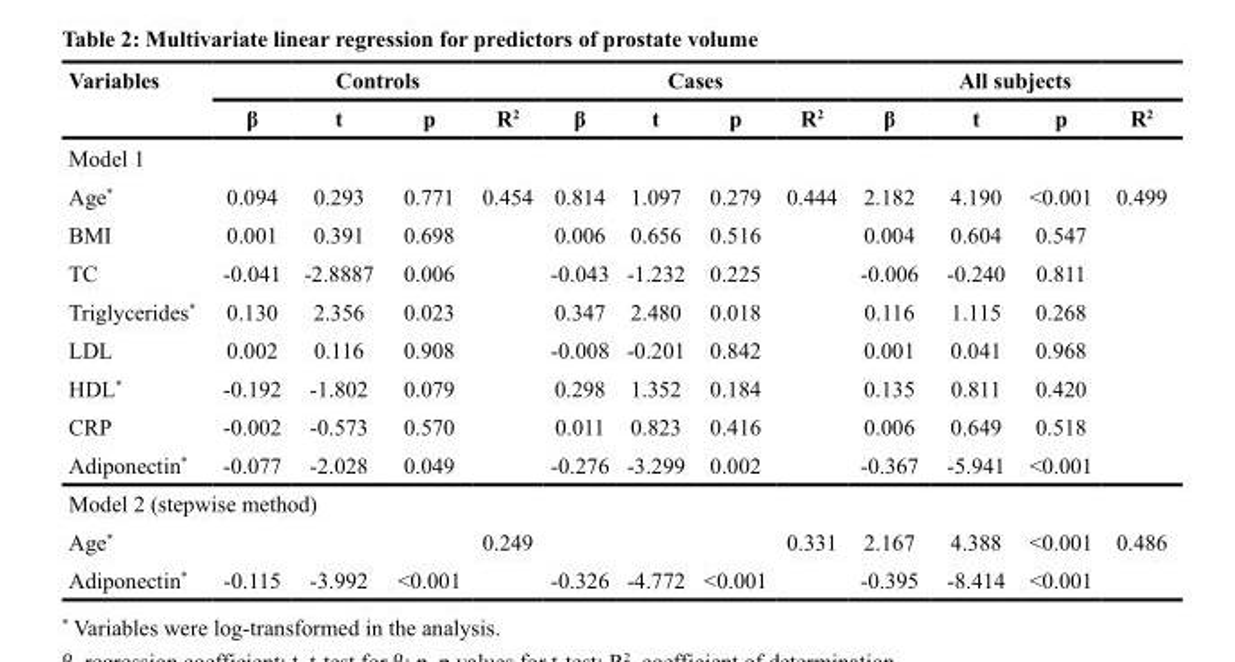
<table><thead><tr><td rowspan="2">Variables</td><td colspan="4">Controls</td><td colspan="4">Cases</td><td colspan="4">All subjects</td></tr><tr><td>β</td><td>t</td><td>p</td><td>R<sup>2</sup></td><td>β</td><td>t</td><td>p</td><td>R<sup>2</sup></td><td>β</td><td>t</td><td>p</td><td>R<sup>2</sup></td></tr></thead><tbody><tr><td colspan="13">Model 1</td></tr><tr><td>Age*</td><td>0.094</td><td>0.293</td><td>0.771</td><td>0.454</td><td>0.814</td><td>1.097</td><td>0.279</td><td>0.444</td><td>2.182</td><td>4.190</td><td>&lt;0.001</td><td>0.499</td></tr><tr><td>BMI</td><td>0.001</td><td>0.391</td><td>0.698</td><td></td><td>0.006</td><td>0.656</td><td>0.516</td><td></td><td>0.004</td><td>0.604</td><td>0.547</td><td></td></tr><tr><td>TC</td><td>-0.041</td><td>-2.8887</td><td>0.006</td><td></td><td>-0.043</td><td>-1.232</td><td>0.225</td><td></td><td>-0.006</td><td>-0.240</td><td>0.811</td><td></td></tr><tr><td>Triglycerides*</td><td>0.130</td><td>2.356</td><td>0.023</td><td></td><td>0.347</td><td>2.480</td><td>0.018</td><td></td><td>0.116</td><td>1.115</td><td>0.268</td><td></td></tr><tr><td>LDL</td><td>0.002</td><td>0.116</td><td>0.908</td><td></td><td>-0.008</td><td>-0.201</td><td>0.842</td><td></td><td>0.001</td><td>0.041</td><td>0.968</td><td></td></tr><tr><td>HDL*</td><td>-0.192</td><td>-1.802</td><td>0.079</td><td></td><td>0.298</td><td>1.352</td><td>0.184</td><td></td><td>0.135</td><td>0.811</td><td>0.420</td><td></td></tr><tr><td>CRP</td><td>-0.002</td><td>-0.573</td><td>0.570</td><td></td><td>0.011</td><td>0.823</td><td>0.416</td><td></td><td>0.006</td><td>0.649</td><td>0.518</td><td></td></tr><tr><td>Adiponectin*</td><td>-0.077</td><td>-2.028</td><td>0.049</td><td></td><td>-0.276</td><td>-3.299</td><td>0.002</td><td></td><td>-0.367</td><td>-5.941</td><td>&lt;0.001</td><td></td></tr><tr><td colspan="13">Model 2 (stepwise method)</td></tr><tr><td>Age*</td><td></td><td></td><td></td><td>0.249</td><td></td><td></td><td></td><td>0.331</td><td>2.167</td><td>4.388</td><td>&lt;0.001</td><td>0.486</td></tr><tr><td>Adiponectin*</td><td>-0.115</td><td>-3.992</td><td>&lt;0.001</td><td></td><td>-0.326</td><td>-4.772</td><td>&lt;0.001</td><td></td><td>-0.395</td><td>-8.414</td><td>&lt;0.001</td><td></td></tr></tbody></table>